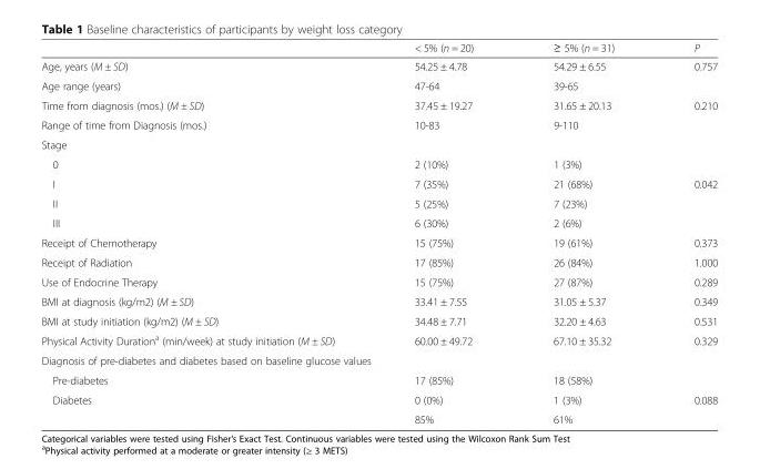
<table><thead><tr><td></td><td>&lt; 5% (n = 20)</td><td>≥ 5% (n = 31)</td><td>P</td></tr></thead><tbody><tr><td>Age, years (M ± SD)</td><td>54.25 ± 4.78</td><td>54.29 ± 6.55</td><td>0.757</td></tr><tr><td>Age range (years)</td><td>47-64</td><td>39-65</td><td></td></tr><tr><td>Time from diagnosis (mos.) (M ± SD)</td><td>37.45 ± 19.27</td><td>31.65 ± 20.13</td><td>0.210</td></tr><tr><td>Range of time from Diagnosis (mos.)</td><td>10-83</td><td>9-110</td><td></td></tr><tr><td colspan="4">Stage</td></tr><tr><td>0</td><td>2 (10%)</td><td>1 (3%)</td><td></td></tr><tr><td>I</td><td>7 (35%)</td><td>21 (68%)</td><td>0.042</td></tr><tr><td>II</td><td>5 (25%)</td><td>7 (23%)</td><td></td></tr><tr><td>III</td><td>6 (30%)</td><td>2 (6%)</td><td></td></tr><tr><td>Receipt of Chemotherapy</td><td>15 (75%)</td><td>19 (61%)</td><td>0.373</td></tr><tr><td>Receipt of Radiation</td><td>17 (85%)</td><td>26 (84%)</td><td>1.000</td></tr><tr><td>Use of Endocrine Therapy</td><td>15 (75%)</td><td>27 (87%)</td><td>0.289</td></tr><tr><td>BMI at diagnosis (kg/m2) (M ± SD)</td><td>33.41 ± 7.55</td><td>31.05 ± 5.37</td><td>0.349</td></tr><tr><td>BMI at study initiation (kg/m2) (M ± SD)</td><td>34.48 ± 7.71</td><td>32.20 ± 4.63</td><td>0.531</td></tr><tr><td>Physical Activity Duration<sup>a</sup> (min/week) at study initiation (M ± SD)</td><td>60.00 ± 49.72</td><td>67.10 ± 35.32</td><td>0.329</td></tr><tr><td colspan="4">Diagnosis of pre-diabetes and diabetes based on baseline glucose values</td></tr><tr><td>Pre-diabetes</td><td>17 (85%)</td><td>18 (58%)</td><td></td></tr><tr><td rowspan="2">Diabetes</td><td>0 (0%)</td><td>1 (3%)</td><td>0.088</td></tr><tr><td>85%</td><td>61%</td><td></td></tr></tbody></table>